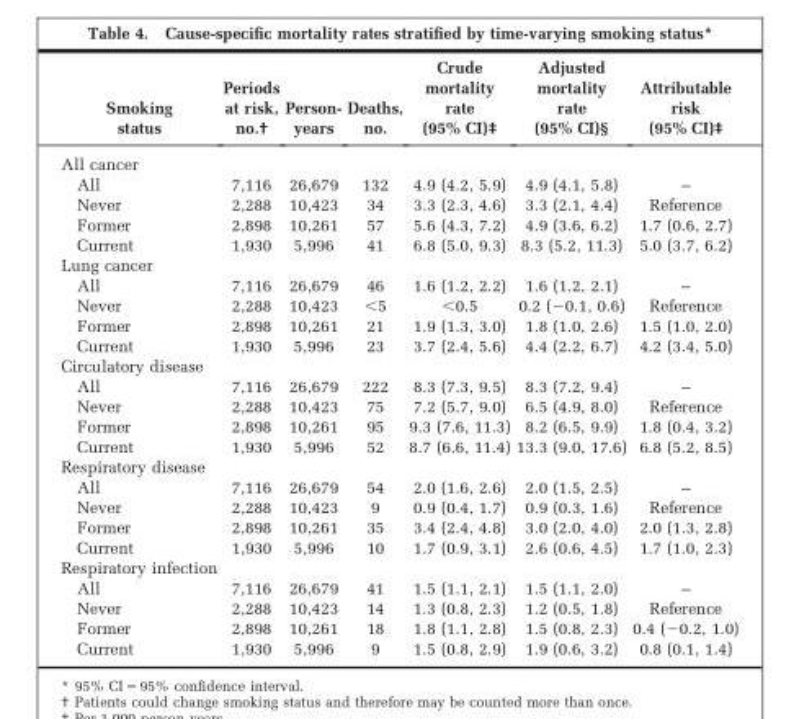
<table><thead><tr><td>Smoking status</td><td>Periods at risk, no.†</td><td>Person- years</td><td>Deaths, no.</td><td>Crude mortality rate (95% CI)‡</td><td>Adjusted mortality rate (95% CI)§</td><td>Attributable risk (95% CI)‡</td></tr></thead><tbody><tr><td colspan="7">All cancer</td></tr><tr><td>All</td><td>7,116</td><td>26,679</td><td>132</td><td>4.9 (4.2, 5.9)</td><td>4.9 (4.1, 5.8)</td><td>–</td></tr><tr><td>Never</td><td>2,288</td><td>10,423</td><td>34</td><td>3.3 (2.3, 4.6)</td><td>3.3 (2.1, 4.4)</td><td>Reference</td></tr><tr><td>Former</td><td>2,898</td><td>10,261</td><td>57</td><td>5.6 (4.3, 7.2)</td><td>4.9 (3.6, 6.2)</td><td>1.7 (0.6, 2.7)</td></tr><tr><td>Current</td><td>1,930</td><td>5,996</td><td>41</td><td>6.8 (5.0, 9.3)</td><td>8.3 (5.2, 11.3)</td><td>5.0 (3.7, 6.2)</td></tr><tr><td colspan="7">Lung cancer</td></tr><tr><td>All</td><td>7,116</td><td>26,679</td><td>46</td><td>1.6 (1.2, 2.2)</td><td>1.6 (1.2, 2.1)</td><td>–</td></tr><tr><td>Never</td><td>2,288</td><td>10,423</td><td>&lt;5</td><td>&lt;0.5</td><td>0.2 (−0.1, 0.6)</td><td>Reference</td></tr><tr><td>Former</td><td>2,898</td><td>10,261</td><td>21</td><td>1.9 (1.3, 3.0)</td><td>1.8 (1.0, 2.6)</td><td>1.5 (1.0, 2.0)</td></tr><tr><td>Current</td><td>1,930</td><td>5,996</td><td>23</td><td>3.7 (2.4, 5.6)</td><td>4.4 (2.2, 6.7)</td><td>4.2 (3.4, 5.0)</td></tr><tr><td colspan="7">Circulatory disease</td></tr><tr><td>All</td><td>7,116</td><td>26,679</td><td>222</td><td>8.3 (7.3, 9.5)</td><td>8.3 (7.2, 9.4)</td><td>–</td></tr><tr><td>Never</td><td>2,288</td><td>10,423</td><td>75</td><td>7.2 (5.7, 9.0)</td><td>6.5 (4.9, 8.0)</td><td>Reference</td></tr><tr><td>Former</td><td>2,898</td><td>10,261</td><td>95</td><td>9.3 (7.6, 11.3)</td><td>8.2 (6.5, 9.9)</td><td>1.8 (0.4, 3.2)</td></tr><tr><td>Current</td><td>1,930</td><td>5,996</td><td>52</td><td>8.7 (6.6, 11.4)</td><td>13.3 (9.0, 17.6)</td><td>6.8 (5.2, 8.5)</td></tr><tr><td colspan="7">Respiratory disease</td></tr><tr><td>All</td><td>7,116</td><td>26,679</td><td>54</td><td>2.0 (1.6, 2.6)</td><td>2.0 (1.5, 2.5)</td><td>–</td></tr><tr><td>Never</td><td>2,288</td><td>10,423</td><td>9</td><td>0.9 (0.4, 1.7)</td><td>0.9 (0.3, 1.6)</td><td>Reference</td></tr><tr><td>Former</td><td>2,898</td><td>10,261</td><td>35</td><td>3.4 (2.4, 4.8)</td><td>3.0 (2.0, 4.0)</td><td>2.0 (1.3, 2.8)</td></tr><tr><td>Current</td><td>1,930</td><td>5,996</td><td>10</td><td>1.7 (0.9, 3.1)</td><td>2.6 (0.6, 4.5)</td><td>1.7 (1.0, 2.3)</td></tr><tr><td colspan="7">Respiratory infection</td></tr><tr><td>All</td><td>7,116</td><td>26,679</td><td>41</td><td>1.5 (1.1, 2.1)</td><td>1.5 (1.1, 2.0)</td><td>–</td></tr><tr><td>Never</td><td>2,288</td><td>10,423</td><td>14</td><td>1.3 (0.8, 2.3)</td><td>1.2 (0.5, 1.8)</td><td>Reference</td></tr><tr><td>Former</td><td>2,898</td><td>10,261</td><td>18</td><td>1.8 (1.1, 2.8)</td><td>1.5 (0.8, 2.3)</td><td>0.4 (−0.2, 1.0)</td></tr><tr><td>Current</td><td>1,930</td><td>5,996</td><td>9</td><td>1.5 (0.8, 2.9)</td><td>1.9 (0.6, 3.2)</td><td>0.8 (0.1, 1.4)</td></tr></tbody></table>